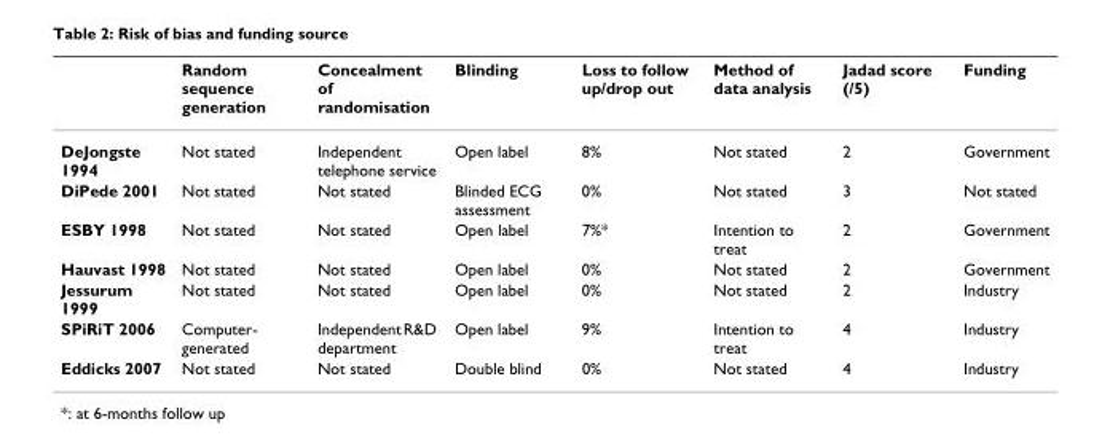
<table><thead><tr><td></td><td>Random sequence generation</td><td>Concealment of randomisation</td><td>Blinding</td><td>Loss to follow up/drop out</td><td>Method of data analysis</td><td>Jadad score (/5)</td><td>Funding</td></tr></thead><tbody><tr><td>DeJongste 1994</td><td>Not stated</td><td>Independent telephone service</td><td>Open label</td><td>8%</td><td>Not stated</td><td>2</td><td>Government</td></tr><tr><td>DiPede 2001</td><td>Not stated</td><td>Not stated</td><td>Blinded ECG assessment</td><td>0%</td><td>Not stated</td><td>3</td><td>Not stated</td></tr><tr><td>ESBY 1998</td><td>Not stated</td><td>Not stated</td><td>Open label</td><td>7%*</td><td>Intention to treat</td><td>2</td><td>Government</td></tr><tr><td>Hauvast 1998</td><td>Not stated</td><td>Not stated</td><td>Open label</td><td>0%</td><td>Not stated</td><td>2</td><td>Government</td></tr><tr><td>Jessurum 1999</td><td>Not stated</td><td>Not stated</td><td>Open label</td><td>0%</td><td>Not stated</td><td>2</td><td>Industry</td></tr><tr><td>SPiRiT 2006</td><td>Computer- generated</td><td>Independent R&amp;D department</td><td>Open label</td><td>9%</td><td>Intention to treat</td><td>4</td><td>Industry</td></tr><tr><td>Eddicks 2007</td><td>Not stated</td><td>Not stated</td><td>Double blind</td><td>0%</td><td>Not stated</td><td>4</td><td>Industry</td></tr></tbody></table>